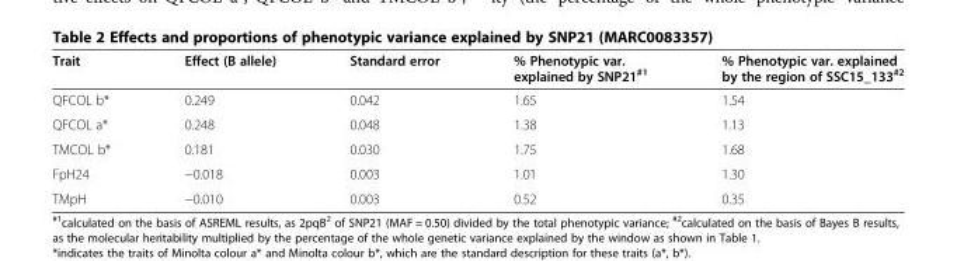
<table><thead><tr><td>Trait</td><td>Effect (B allele)</td><td>Standard error</td><td>% Phenotypic var. explained by SNP21<sup>#1</sup></td><td>% Phenotypic var. explained by the region of SSC15_133<sup>#2</sup></td></tr></thead><tbody><tr><td>QFCOL b*</td><td>0.249</td><td>0.042</td><td>1.65</td><td>1.54</td></tr><tr><td>QFCOL a*</td><td>0.248</td><td>0.048</td><td>1.38</td><td>1.13</td></tr><tr><td>TMCOL b*</td><td>0.181</td><td>0.030</td><td>1.75</td><td>1.68</td></tr><tr><td>FpH24</td><td>−0.018</td><td>0.003</td><td>1.01</td><td>1.30</td></tr><tr><td>TMpH</td><td>−0.010</td><td>0.003</td><td>0.52</td><td>0.35</td></tr></tbody></table>